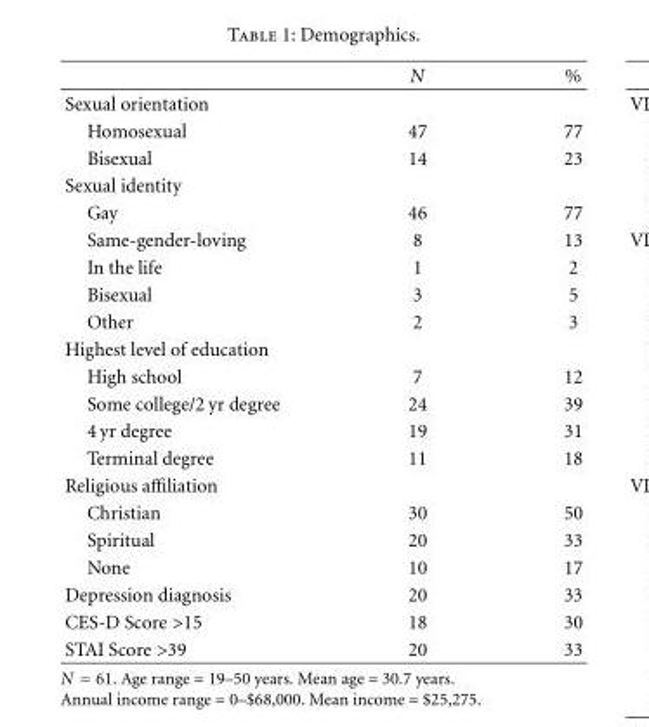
<table><thead><tr><td></td><td>N</td><td>%</td></tr></thead><tbody><tr><td colspan="3">Sexual orientation</td></tr><tr><td>Homosexual</td><td>47</td><td>77</td></tr><tr><td>Bisexual</td><td>14</td><td>23</td></tr><tr><td colspan="3">Sexual identity</td></tr><tr><td>Gay</td><td>46</td><td>77</td></tr><tr><td>Same-gender-loving</td><td>8</td><td>13</td></tr><tr><td>In the life</td><td>1</td><td>2</td></tr><tr><td>Bisexual</td><td>3</td><td>5</td></tr><tr><td>Other</td><td>2</td><td>3</td></tr><tr><td colspan="3">Highest level of education</td></tr><tr><td>High school</td><td>7</td><td>12</td></tr><tr><td>Some college/2 yr degree</td><td>24</td><td>39</td></tr><tr><td>4 yr degree</td><td>19</td><td>31</td></tr><tr><td>Terminal degree</td><td>11</td><td>18</td></tr><tr><td colspan="3">Religious affiliation</td></tr><tr><td>Christian</td><td>30</td><td>50</td></tr><tr><td>Spiritual</td><td>20</td><td>33</td></tr><tr><td>None</td><td>10</td><td>17</td></tr><tr><td>Depression diagnosis</td><td>20</td><td>33</td></tr><tr><td>CES-D Score &gt;15</td><td>18</td><td>30</td></tr><tr><td>STAI Score &gt;39</td><td>20</td><td>33</td></tr></tbody></table>